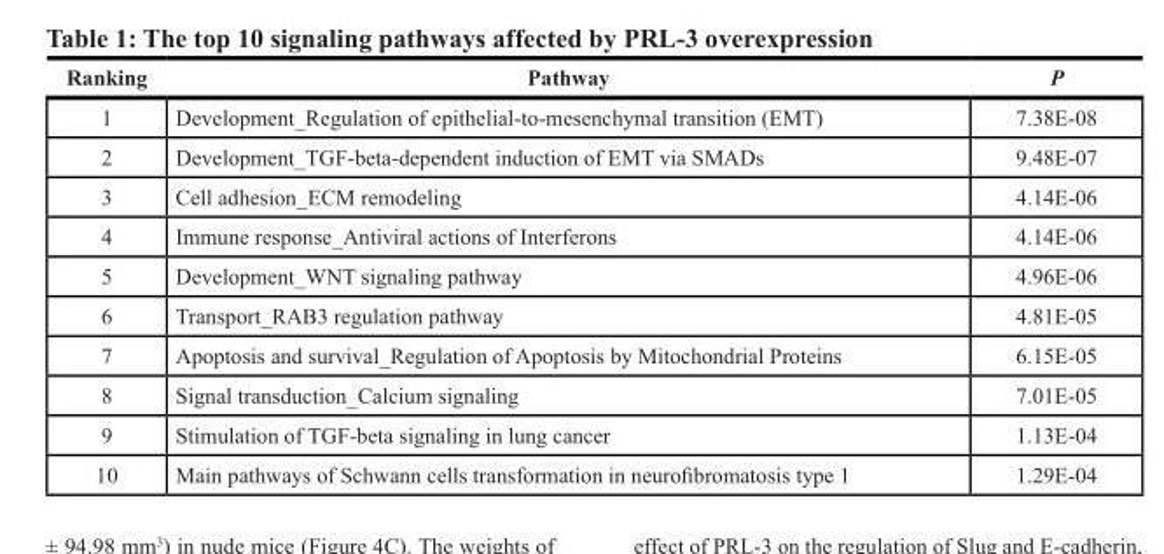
<table><thead><tr><td>Ranking</td><td>Pathway</td><td>P</td></tr></thead><tbody><tr><td>1</td><td>Development_Regulation of epithelial‑to‑mesenchymal transition (EMT)</td><td>7.38E‑08</td></tr><tr><td>2</td><td>Development_TGF‑beta‑dependent induction of EMT via SMADs</td><td>9.48E‑07</td></tr><tr><td>3</td><td>Cell adhesion_ECM remodeling</td><td>4.14E‑06</td></tr><tr><td>4</td><td>Immune response_Antiviral actions of Interferons</td><td>4.14E‑06</td></tr><tr><td>5</td><td>Development_WNT signaling pathway</td><td>4.96E‑06</td></tr><tr><td>6</td><td>Transport_RAB3 regulation pathway</td><td>4.81E‑05</td></tr><tr><td>7</td><td>Apoptosis and survival_Regulation of Apoptosis by Mitochondrial Proteins</td><td>6.15E‑05</td></tr><tr><td>8</td><td>Signal transduction_Calcium signaling</td><td>7.01E‑05</td></tr><tr><td>9</td><td>Stimulation of TGF‑beta signaling in lung cancer</td><td>1.13E‑04</td></tr><tr><td>10</td><td>Main pathways of Schwann cells transformation in neurofibromatosis type 1</td><td>1.29E‑04</td></tr></tbody></table>